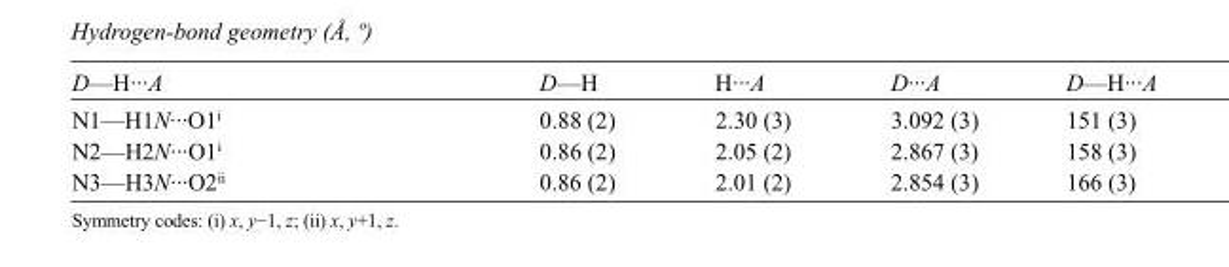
<table><tbody><tr><td>D—H···A</td><td>D—H</td><td>H···A</td><td>D···A</td><td>D—H···A</td></tr><tr><td>N1—H1N···O1<sup>i</sup></td><td>0.88 (2)</td><td>2.30 (3)</td><td>3.092 (3)</td><td>151 (3)</td></tr><tr><td>N2—H2N···O1<sup>i</sup></td><td>0.86 (2)</td><td>2.05 (2)</td><td>2.867 (3)</td><td>158 (3)</td></tr><tr><td>N3—H3N···O2<sup>ii</sup></td><td>0.86 (2)</td><td>2.01 (2)</td><td>2.854 (3)</td><td>166 (3)</td></tr></tbody></table>